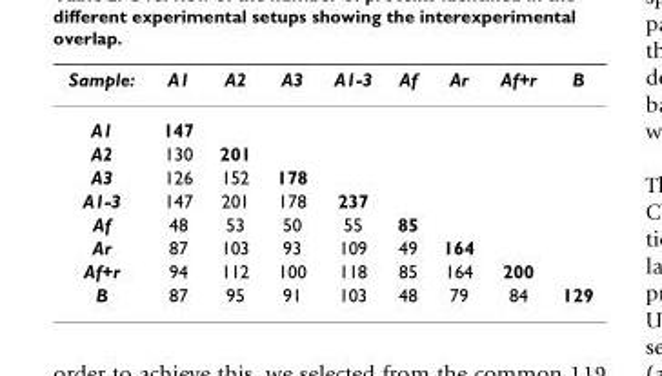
<table><thead><tr><td>Sample:</td><td>A1</td><td>A2</td><td>A3</td><td>A1-3</td><td>Af</td><td>Ar</td><td>Af+r</td><td>B</td></tr></thead><tbody><tr><td>A1</td><td>147</td><td></td><td></td><td></td><td></td><td></td><td></td><td></td></tr><tr><td>A2</td><td>130</td><td>201</td><td></td><td></td><td></td><td></td><td></td><td></td></tr><tr><td>A3</td><td>126</td><td>152</td><td>178</td><td></td><td></td><td></td><td></td><td></td></tr><tr><td>A1-3</td><td>147</td><td>201</td><td>178</td><td>237</td><td></td><td></td><td></td><td></td></tr><tr><td>Af</td><td>48</td><td>53</td><td>50</td><td>55</td><td>85</td><td></td><td></td><td></td></tr><tr><td>Ar</td><td>87</td><td>103</td><td>93</td><td>109</td><td>49</td><td>164</td><td></td><td></td></tr><tr><td>Af+r</td><td>94</td><td>112</td><td>100</td><td>118</td><td>85</td><td>164</td><td>200</td><td></td></tr><tr><td>B</td><td>87</td><td>95</td><td>91</td><td>103</td><td>48</td><td>79</td><td>84</td><td>129</td></tr></tbody></table>